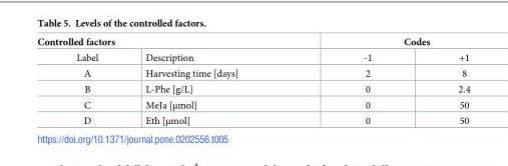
<table><thead><tr><td colspan="2">Controlled factors</td><td colspan="2">Codes</td></tr><tr><td>Label</td><td>Description</td><td>-1</td><td>+1</td></tr></thead><tbody><tr><td>A</td><td>Harvesting time [days]</td><td>2</td><td>8</td></tr><tr><td>B</td><td>L-Phe [g/L]</td><td>0</td><td>2.4</td></tr><tr><td>C</td><td>MeJa [μmol]</td><td>0</td><td>50</td></tr><tr><td>D</td><td>Eth [μmol]</td><td>0</td><td>50</td></tr></tbody></table>